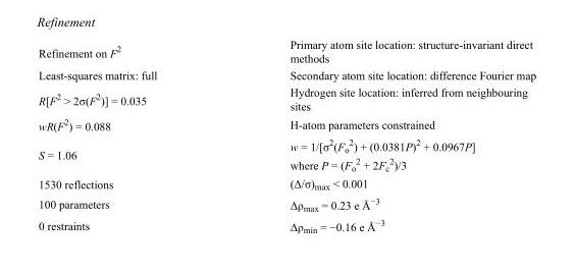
<table><tbody><tr><td>Refinement on F<sup>2</sup></td><td>Primary atom site location: structure-invariant direct methods</td></tr><tr><td>Least-squares matrix: full</td><td>Secondary atom site location: difference Fourier map</td></tr><tr><td>R[F<sup>2</sup> &gt; 2σ(F<sup>2</sup>)] = 0.035</td><td>Hydrogen site location: inferred from neighbouring sites</td></tr><tr><td>wR(F<sup>2</sup>) = 0.088</td><td>H-atom parameters constrained</td></tr><tr><td>S = 1.06</td><td>w = 1/[σ<sup>2</sup>(F<sub>o</sub> <sup>2</sup>) + (0.0381P)<sup>2</sup> + 0.0967P] where P = (F<sub>o</sub> <sup>2</sup> + 2F<sub>c</sub> <sup>2</sup>)/3</td></tr><tr><td>1530 reflections</td><td>(Δ/σ)<sub>max</sub> &lt; 0.001</td></tr><tr><td>100 parameters</td><td>Δρ<sub>max</sub> = 0.23 e Å<sup>−3</sup></td></tr><tr><td>0 restraints</td><td>Δρ<sub>min</sub> = −0.16 e Å<sup>−3</sup></td></tr></tbody></table>